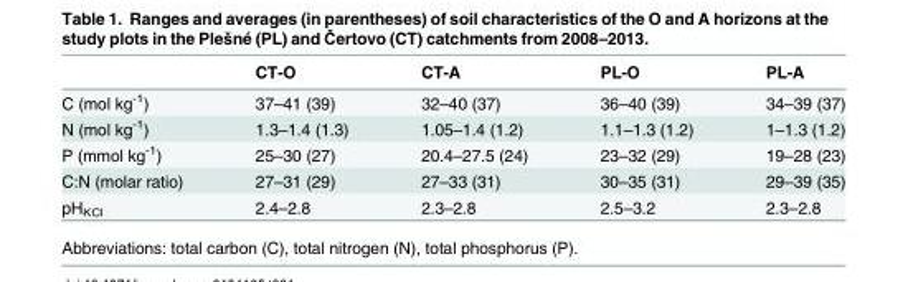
<table><thead><tr><td></td><td>CT-O</td><td>CT-A</td><td>PL-O</td><td>PL-A</td></tr></thead><tbody><tr><td>C (mol kg<sup>-1</sup>)</td><td>37–41 (39)</td><td>32–40 (37)</td><td>36–40 (39)</td><td>34–39 (37)</td></tr><tr><td>N (mol kg<sup>-1</sup>)</td><td>1.3–1.4 (1.3)</td><td>1.05–1.4 (1.2)</td><td>1.1–1.3 (1.2)</td><td>1–1.3 (1.2)</td></tr><tr><td>P (mmol kg<sup>-1</sup>)</td><td>25–30 (27)</td><td>20.4–27.5 (24)</td><td>23–32 (29)</td><td>19–28 (23)</td></tr><tr><td>C:N (molar ratio)</td><td>27–31 (29)</td><td>27–33 (31)</td><td>30–35 (31)</td><td>29–39 (35)</td></tr><tr><td>pH<sub>KCl</sub></td><td>2.4–2.8</td><td>2.3–2.8</td><td>2.5–3.2</td><td>2.3–2.8</td></tr></tbody></table>